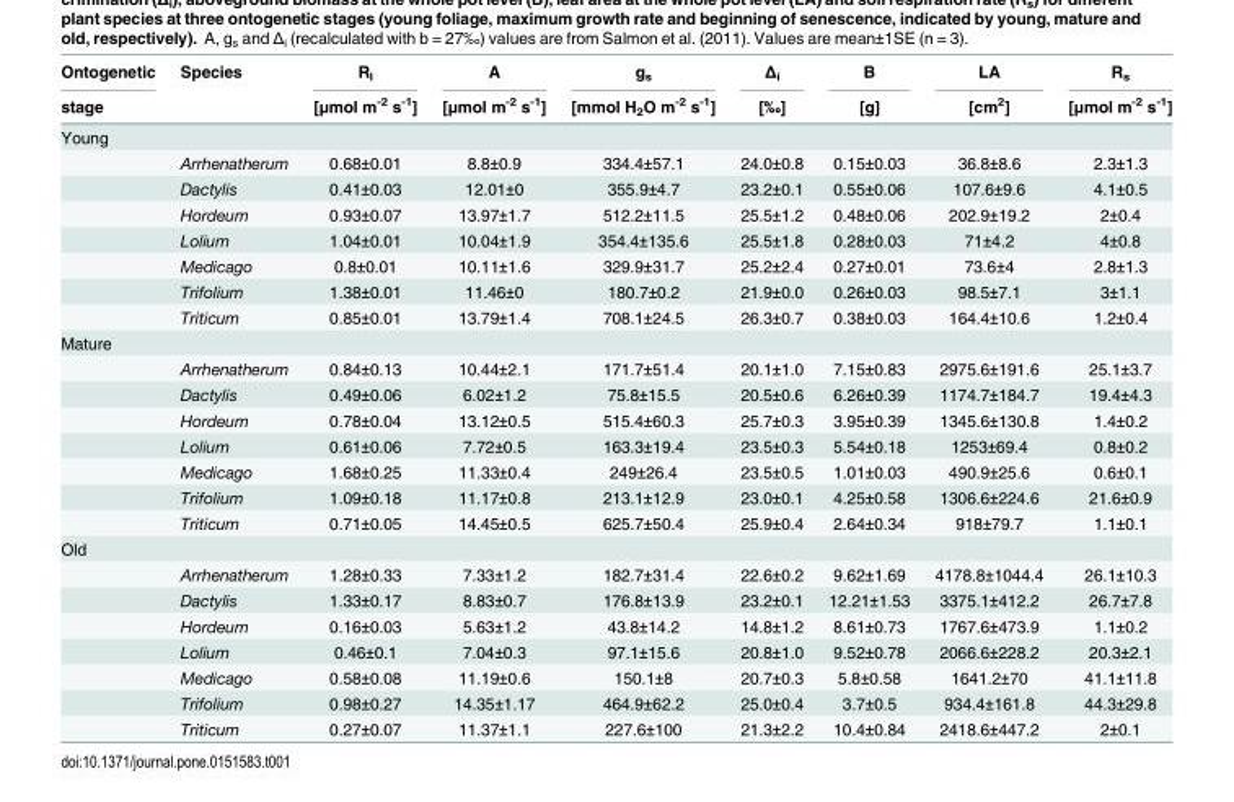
<table><thead><tr><td rowspan="2">Ontogenetic stage</td><td rowspan="2">Species</td><td rowspan="2">R<sub>l</sub> [μmol m<sup>-2</sup> s<sup>-1</sup>]</td><td rowspan="2">A [μmol m<sup>-2</sup> s<sup>-1</sup>]</td><td rowspan="2">g<sub>s</sub> [mmol H<sub>2</sub>O m<sup>-2</sup> s<sup>-1</sup>]</td><td rowspan="2">Δ<sub>i</sub> [‰]</td><td rowspan="2">B [g]</td><td rowspan="2">LA [cm<sup>2</sup>]</td><td rowspan="2">R<sub>s</sub> [μmol m<sup>-2</sup> s<sup>-1</sup>]</td></tr><tr></tr></thead><tbody><tr><td colspan="9">Young</td></tr><tr><td></td><td>Arrhenatherum</td><td>0.68±0.01</td><td>8.8±0.9</td><td>334.4±57.1</td><td>24.0±0.8</td><td>0.15±0.03</td><td>36.8±8.6</td><td>2.3±1.3</td></tr><tr><td></td><td>Dactylis</td><td>0.41±0.03</td><td>12.01±0</td><td>355.9±4.7</td><td>23.2±0.1</td><td>0.55±0.06</td><td>107.6±9.6</td><td>4.1±0.5</td></tr><tr><td></td><td>Hordeum</td><td>0.93±0.07</td><td>13.97±1.7</td><td>512.2±11.5</td><td>25.5±1.2</td><td>0.48±0.06</td><td>202.9±19.2</td><td>2±0.4</td></tr><tr><td></td><td>Lolium</td><td>1.04±0.01</td><td>10.04±1.9</td><td>354.4±135.6</td><td>25.5±1.8</td><td>0.28±0.03</td><td>71±4.2</td><td>4±0.8</td></tr><tr><td></td><td>Medicago</td><td>0.8±0.01</td><td>10.11±1.6</td><td>329.9±31.7</td><td>25.2±2.4</td><td>0.27±0.01</td><td>73.6±4</td><td>2.8±1.3</td></tr><tr><td></td><td>Trifolium</td><td>1.38±0.01</td><td>11.46±0</td><td>180.7±0.2</td><td>21.9±0.0</td><td>0.26±0.03</td><td>98.5±7.1</td><td>3±1.1</td></tr><tr><td></td><td>Triticum</td><td>0.85±0.01</td><td>13.79±1.4</td><td>708.1±24.5</td><td>26.3±0.7</td><td>0.38±0.03</td><td>164.4±10.6</td><td>1.2±0.4</td></tr><tr><td colspan="9">Mature</td></tr><tr><td></td><td>Arrhenatherum</td><td>0.84±0.13</td><td>10.44±2.1</td><td>171.7±51.4</td><td>20.1±1.0</td><td>7.15±0.83</td><td>2975.6±191.6</td><td>25.1±3.7</td></tr><tr><td></td><td>Dactylis</td><td>0.49±0.06</td><td>6.02±1.2</td><td>75.8±15.5</td><td>20.5±0.6</td><td>6.26±0.39</td><td>1174.7±184.7</td><td>19.4±4.3</td></tr><tr><td></td><td>Hordeum</td><td>0.78±0.04</td><td>13.12±0.5</td><td>515.4±60.3</td><td>25.7±0.3</td><td>3.95±0.39</td><td>1345.6±130.8</td><td>1.4±0.2</td></tr><tr><td></td><td>Lolium</td><td>0.61±0.06</td><td>7.72±0.5</td><td>163.3±19.4</td><td>23.5±0.3</td><td>5.54±0.18</td><td>1253±69.4</td><td>0.8±0.2</td></tr><tr><td></td><td>Medicago</td><td>1.68±0.25</td><td>11.33±0.4</td><td>249±26.4</td><td>23.5±0.5</td><td>1.01±0.03</td><td>490.9±25.6</td><td>0.6±0.1</td></tr><tr><td></td><td>Trifolium</td><td>1.09±0.18</td><td>11.17±0.8</td><td>213.1±12.9</td><td>23.0±0.1</td><td>4.25±0.58</td><td>1306.6±224.6</td><td>21.6±0.9</td></tr><tr><td></td><td>Triticum</td><td>0.71±0.05</td><td>14.45±0.5</td><td>625.7±50.4</td><td>25.9±0.4</td><td>2.64±0.34</td><td>918±79.7</td><td>1.1±0.1</td></tr><tr><td colspan="9">Old</td></tr><tr><td></td><td>Arrhenatherum</td><td>1.28±0.33</td><td>7.33±1.2</td><td>182.7±31.4</td><td>22.6±0.2</td><td>9.62±1.69</td><td>4178.8±1044.4</td><td>26.1±10.3</td></tr><tr><td></td><td>Dactylis</td><td>1.33±0.17</td><td>8.83±0.7</td><td>176.8±13.9</td><td>23.2±0.1</td><td>12.21±1.53</td><td>3375.1±412.2</td><td>26.7±7.8</td></tr><tr><td></td><td>Hordeum</td><td>0.16±0.03</td><td>5.63±1.2</td><td>43.8±14.2</td><td>14.8±1.2</td><td>8.61±0.73</td><td>1767.6±473.9</td><td>1.1±0.2</td></tr><tr><td></td><td>Lolium</td><td>0.46±0.1</td><td>7.04±0.3</td><td>97.1±15.6</td><td>20.8±1.0</td><td>9.52±0.78</td><td>2066.6±228.2</td><td>20.3±2.1</td></tr><tr><td></td><td>Medicago</td><td>0.58±0.08</td><td>11.19±0.6</td><td>150.1±8</td><td>20.7±0.3</td><td>5.8±0.58</td><td>1641.2±70</td><td>41.1±11.8</td></tr><tr><td></td><td>Trifolium</td><td>0.98±0.27</td><td>14.35±1.17</td><td>464.9±62.2</td><td>25.0±0.4</td><td>3.7±0.5</td><td>934.4±161.8</td><td>44.3±29.8</td></tr><tr><td></td><td>Triticum</td><td>0.27±0.07</td><td>11.37±1.1</td><td>227.6±100</td><td>21.3±2.2</td><td>10.4±0.84</td><td>2418.6±447.2</td><td>2±0.1</td></tr></tbody></table>